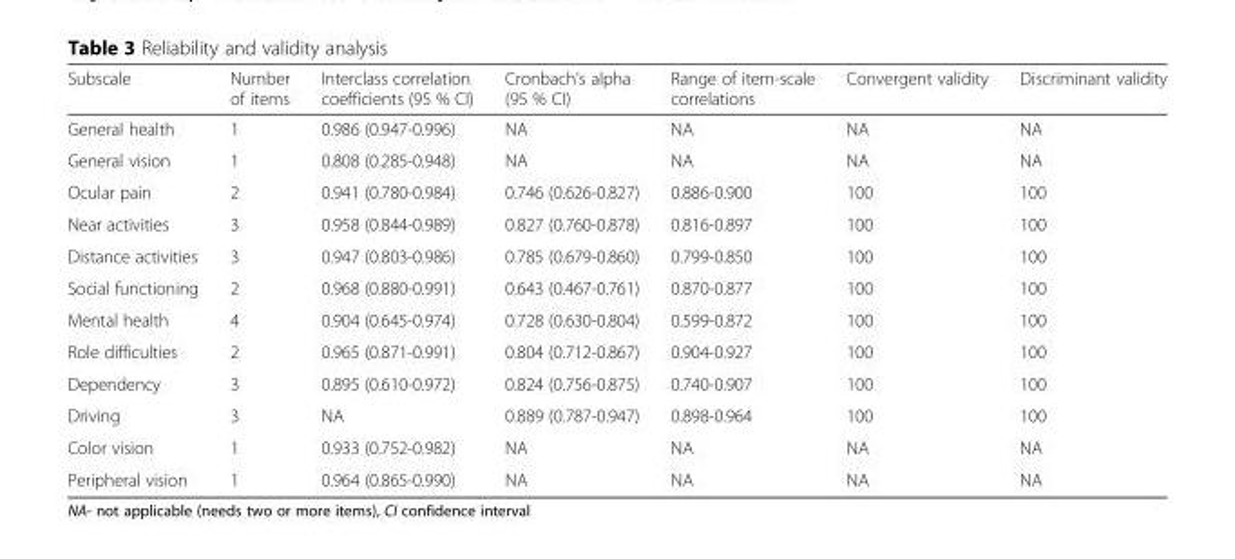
<table><thead><tr><td>Subscale</td><td>Number of items</td><td>Interclass correlation coefficients (95 % CI)</td><td>Cronbach’s alpha (95 % CI)</td><td>Range of item-scale correlations</td><td>Convergent validity</td><td>Discriminant validity</td></tr></thead><tbody><tr><td>General health</td><td>1</td><td>0.986 (0.947-0.996)</td><td>NA</td><td>NA</td><td>NA</td><td>NA</td></tr><tr><td>General vision</td><td>1</td><td>0.808 (0.285-0.948)</td><td>NA</td><td>NA</td><td>NA</td><td>NA</td></tr><tr><td>Ocular pain</td><td>2</td><td>0.941 (0.780-0.984)</td><td>0.746 (0.626-0.827)</td><td>0.886-0.900</td><td>100</td><td>100</td></tr><tr><td>Near activities</td><td>3</td><td>0.958 (0.844-0.989)</td><td>0.827 (0.760-0.878)</td><td>0.816-0.897</td><td>100</td><td>100</td></tr><tr><td>Distance activities</td><td>3</td><td>0.947 (0.803-0.986)</td><td>0.785 (0.679-0.860)</td><td>0.799-0.850</td><td>100</td><td>100</td></tr><tr><td>Social functioning</td><td>2</td><td>0.968 (0.880-0.991)</td><td>0.643 (0.467-0.761)</td><td>0.870-0.877</td><td>100</td><td>100</td></tr><tr><td>Mental health</td><td>4</td><td>0.904 (0.645-0.974)</td><td>0.728 (0.630-0.804)</td><td>0.599-0.872</td><td>100</td><td>100</td></tr><tr><td>Role difficulties</td><td>2</td><td>0.965 (0.871-0.991)</td><td>0.804 (0.712-0.867)</td><td>0.904-0.927</td><td>100</td><td>100</td></tr><tr><td>Dependency</td><td>3</td><td>0.895 (0.610-0.972)</td><td>0.824 (0.756-0.875)</td><td>0.740-0.907</td><td>100</td><td>100</td></tr><tr><td>Driving</td><td>3</td><td>NA</td><td>0.889 (0.787-0.947)</td><td>0.898-0.964</td><td>100</td><td>100</td></tr><tr><td>Color vision</td><td>1</td><td>0.933 (0.752-0.982)</td><td>NA</td><td>NA</td><td>NA</td><td>NA</td></tr><tr><td>Peripheral vision</td><td>1</td><td>0.964 (0.865-0.990)</td><td>NA</td><td>NA</td><td>NA</td><td>NA</td></tr></tbody></table>